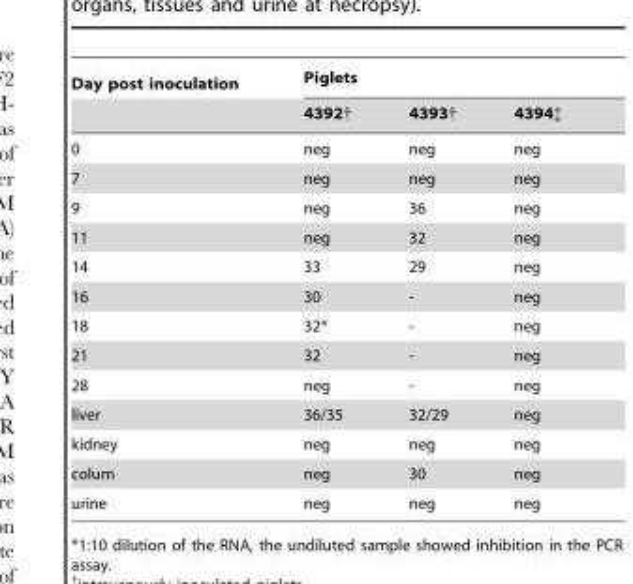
<table><thead><tr><td rowspan="2">Day post inoculation</td><td colspan="3">Piglets</td></tr><tr><td>4392†</td><td>4393†</td><td>4394‡</td></tr></thead><tbody><tr><td>0</td><td>neg</td><td>neg</td><td>neg</td></tr><tr><td>7</td><td>neg</td><td>neg</td><td>neg</td></tr><tr><td>9</td><td>neg</td><td>36</td><td>neg</td></tr><tr><td>11</td><td>neg</td><td>32</td><td>neg</td></tr><tr><td>14</td><td>33</td><td>29</td><td>neg</td></tr><tr><td>16</td><td>30</td><td>-</td><td>neg</td></tr><tr><td>18</td><td>32*</td><td>-</td><td>neg</td></tr><tr><td>21</td><td>32</td><td>-</td><td>neg</td></tr><tr><td>28</td><td>neg</td><td>-</td><td>neg</td></tr><tr><td>liver</td><td>36/35</td><td>32/29</td><td>neg</td></tr><tr><td>kidney</td><td>neg</td><td>neg</td><td>neg</td></tr><tr><td>colum</td><td>neg</td><td>30</td><td>neg</td></tr><tr><td>urine</td><td>neg</td><td>neg</td><td>neg</td></tr></tbody></table>